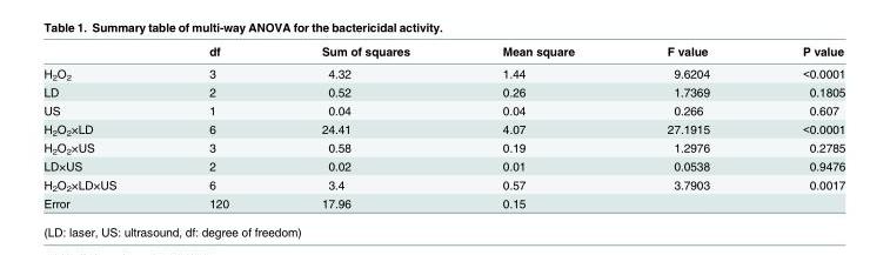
<table><thead><tr><td></td><td>df</td><td>Sum of squares</td><td>Mean square</td><td>F value</td><td>P value</td></tr></thead><tbody><tr><td>H<sub>2</sub>O<sub>2</sub></td><td>3</td><td>4.32</td><td>1.44</td><td>9.6204</td><td>&lt;0.0001</td></tr><tr><td>LD</td><td>2</td><td>0.52</td><td>0.26</td><td>1.7369</td><td>0.1805</td></tr><tr><td>US</td><td>1</td><td>0.04</td><td>0.04</td><td>0.266</td><td>0.607</td></tr><tr><td>H<sub>2</sub>O<sub>2</sub>×LD</td><td>6</td><td>24.41</td><td>4.07</td><td>27.1915</td><td>&lt;0.0001</td></tr><tr><td>H<sub>2</sub>O<sub>2</sub>×US</td><td>3</td><td>0.58</td><td>0.19</td><td>1.2976</td><td>0.2785</td></tr><tr><td>LD×US</td><td>2</td><td>0.02</td><td>0.01</td><td>0.0538</td><td>0.9476</td></tr><tr><td>H<sub>2</sub>O<sub>2</sub>×LD×US</td><td>6</td><td>3.4</td><td>0.57</td><td>3.7903</td><td>0.0017</td></tr><tr><td>Error</td><td>120</td><td>17.96</td><td>0.15</td><td></td><td></td></tr></tbody></table>